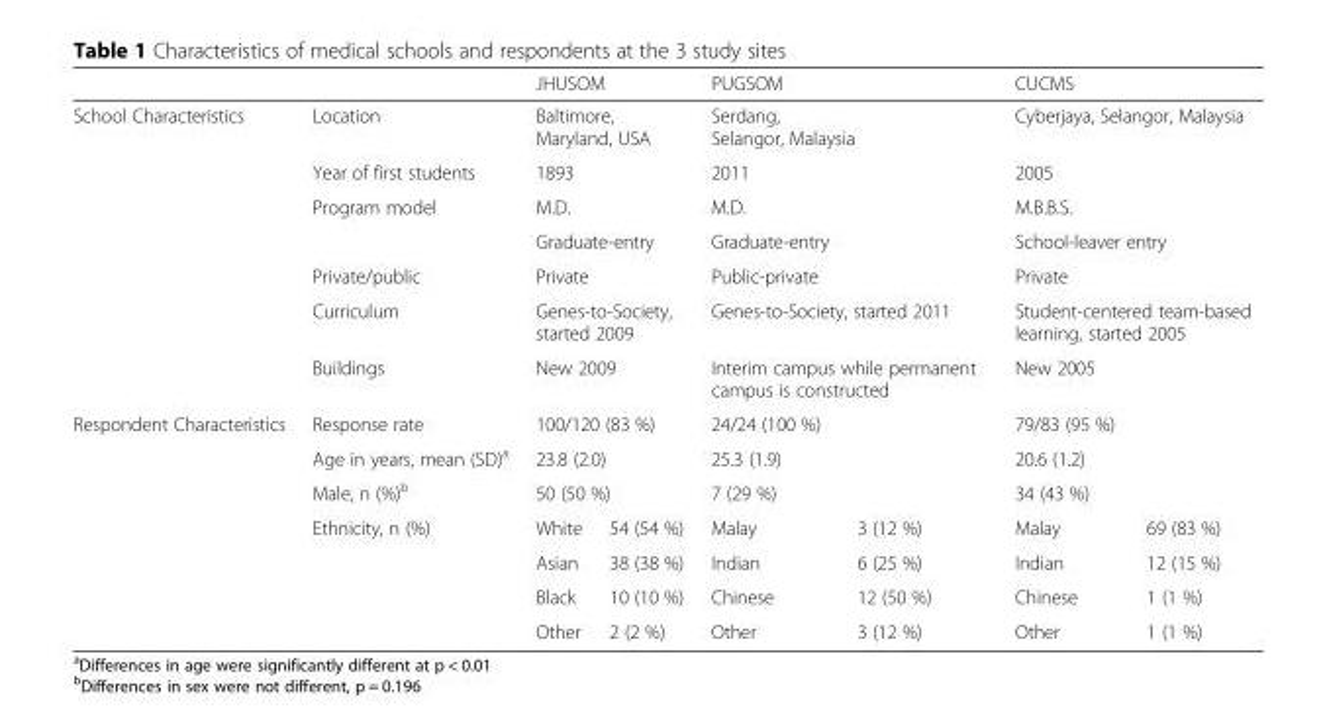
<table><thead><tr><td></td><td></td><td colspan="2">JHUSOM</td><td colspan="2">PUGSOM</td><td colspan="2">CUCMS</td></tr></thead><tbody><tr><td rowspan="7">School Characteristics</td><td>Location</td><td colspan="2">Baltimore, Maryland, USA</td><td colspan="2">Serdang, Selangor, Malaysia</td><td colspan="2">Cyberjaya, Selangor, Malaysia</td></tr><tr><td>Year of first students</td><td>1893</td><td></td><td>2011</td><td></td><td colspan="2">2005</td></tr><tr><td>Program model</td><td colspan="2">M.D.</td><td colspan="2">M.D.</td><td colspan="2">M.B.B.S.</td></tr><tr><td></td><td colspan="2">Graduate-entry</td><td colspan="2">Graduate-entry</td><td colspan="2">School-leaver entry</td></tr><tr><td>Private/public</td><td colspan="2">Private</td><td colspan="2">Public-private</td><td colspan="2">Private</td></tr><tr><td>Curriculum</td><td colspan="2">Genes-to-Society, started 2009</td><td colspan="2">Genes-to-Society, started 2011</td><td colspan="2">Student-centered team-based learning, started 2005</td></tr><tr><td>Buildings</td><td colspan="2">New 2009</td><td colspan="2">Interim campus while permanent campus is constructed</td><td colspan="2">New 2005</td></tr><tr><td rowspan="7">Respondent Characteristics</td><td>Response rate</td><td colspan="2">100/120 (83 %)</td><td colspan="2">24/24 (100 %)</td><td colspan="2">79/83 (95 %)</td></tr><tr><td>Age in years, mean (SD)<sup>a</sup></td><td colspan="2">23.8 (2.0)</td><td colspan="2">25.3 (1.9)</td><td colspan="2">20.6 (1.2)</td></tr><tr><td>Male, n (%)<sup>b</sup></td><td colspan="2">50 (50 %)</td><td colspan="2">7 (29 %)</td><td colspan="2">34 (43 %)</td></tr><tr><td>Ethnicity, n (%)</td><td>White</td><td>54 (54 %)</td><td>Malay</td><td>3 (12 %)</td><td>Malay</td><td>69 (83 %)</td></tr><tr><td></td><td>Asian</td><td>38 (38 %)</td><td>Indian</td><td>6 (25 %)</td><td>Indian</td><td>12 (15 %)</td></tr><tr><td></td><td>Black</td><td>10 (10 %)</td><td>Chinese</td><td>12 (50 %)</td><td>Chinese</td><td>1 (1 %)</td></tr><tr><td></td><td>Other</td><td>2 (2 %)</td><td>Other</td><td>3 (12 %)</td><td>Other</td><td>1 (1 %)</td></tr></tbody></table>